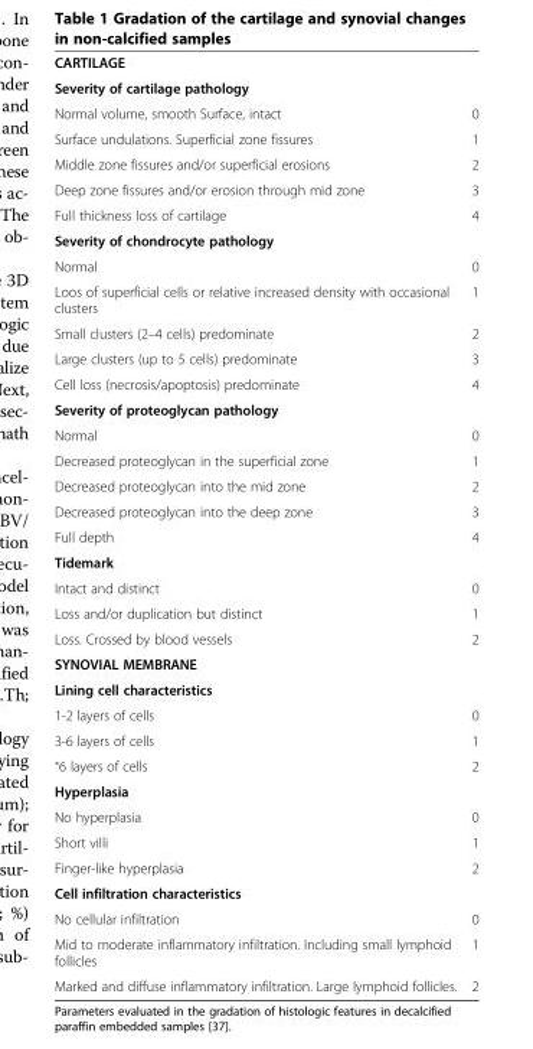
<table><tbody><tr><td colspan="2">CARTILAGE</td></tr><tr><td colspan="2">Severity of cartilage pathology</td></tr><tr><td>Normal volume, smooth Surface, intact</td><td>0</td></tr><tr><td>Surface undulations. Superficial zone fissures</td><td>1</td></tr><tr><td>Middle zone fissures and/or superficial erosions</td><td>2</td></tr><tr><td>Deep zone fissures and/or erosion through mid zone</td><td>3</td></tr><tr><td>Full thickness loss of cartilage</td><td>4</td></tr><tr><td colspan="2">Severity of chondrocyte pathology</td></tr><tr><td>Normal</td><td>0</td></tr><tr><td>Loos of superficial cells or relative increased density with occasional clusters</td><td>1</td></tr><tr><td>Small clusters (2–4 cells) predominate</td><td>2</td></tr><tr><td>Large clusters (up to 5 cells) predominate</td><td>3</td></tr><tr><td>Cell loss (necrosis/apoptosis) predominate</td><td>4</td></tr><tr><td colspan="2">Severity of proteoglycan pathology</td></tr><tr><td>Normal</td><td>0</td></tr><tr><td>Decreased proteoglycan in the superficial zone</td><td>1</td></tr><tr><td>Decreased proteoglycan into the mid zone</td><td>2</td></tr><tr><td>Decreased proteoglycan into the deep zone</td><td>3</td></tr><tr><td>Full depth</td><td>4</td></tr><tr><td colspan="2">Tidemark</td></tr><tr><td>Intact and distinct</td><td>0</td></tr><tr><td>Loss and/or duplication but distinct</td><td>1</td></tr><tr><td>Loss. Crossed by blood vessels</td><td>2</td></tr><tr><td colspan="2">SYNOVIAL MEMBRANE</td></tr><tr><td colspan="2">Lining cell characteristics</td></tr><tr><td>1-2 layers of cells</td><td>0</td></tr><tr><td>3-6 layers of cells</td><td>1</td></tr><tr><td>˃6 layers of cells</td><td>2</td></tr><tr><td colspan="2">Hyperplasia</td></tr><tr><td>No hyperplasia</td><td>0</td></tr><tr><td>Short villi</td><td>1</td></tr><tr><td>Finger-like hyperplasia</td><td>2</td></tr><tr><td colspan="2">Cell infiltration characteristics</td></tr><tr><td>No cellular infiltration</td><td>0</td></tr><tr><td>Mid to moderate inflammatory infiltration. Including small lymphoid follicles</td><td>1</td></tr><tr><td>Marked and diffuse inflammatory infiltration. Large lymphoid follicles.</td><td>2</td></tr></tbody></table>